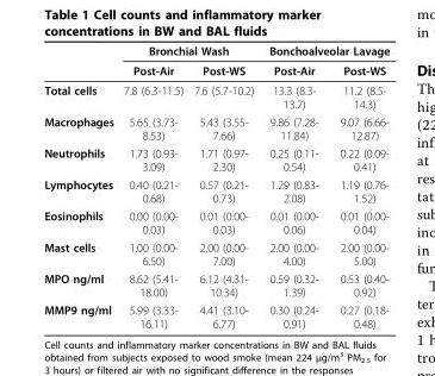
<table><thead><tr><td rowspan="2"></td><td colspan="2">Bronchial Wash</td><td colspan="2">Bonchoalveolar Lavage</td></tr><tr><td>Post-Air</td><td>Post-WS</td><td>Post-Air</td><td>Post-WS</td></tr></thead><tbody><tr><td>Total cells</td><td>7.8 (6.3-11.5)</td><td>7.6 (5.7-10.2)</td><td>13.3 (8.3- 13.7)</td><td>11.2 (8.5- 14.3)</td></tr><tr><td>Macrophages</td><td>5.65 (3.73- 8.53)</td><td>5.43 (3.55- 7.66)</td><td>9.86 (7.28- 11.84)</td><td>9.07 (6.66- 12.87)</td></tr><tr><td>Neutrophils</td><td>1.73 (0.93- 3.09)</td><td>1.71 (0.97- 2.30)</td><td>0.25 (0.11- 0.54)</td><td>0.22 (0.09- 0.41)</td></tr><tr><td>Lymphocytes</td><td>0.40 (0.21- 0.68)</td><td>0.57 (0.21- 0.73)</td><td>1.29 (0.83- 2.08)</td><td>1.19 (0.76- 1.52)</td></tr><tr><td>Eosinophils</td><td>0.00 (0.00- 0.03)</td><td>0.01 (0.00- 0.03)</td><td>0.01 (0.00- 0.06)</td><td>0.01 (0.00- 0.04)</td></tr><tr><td>Mast cells</td><td>1.00 (0.00- 6.50)</td><td>2.00 (0.00- 7.00)</td><td>2.00 (0.00- 4.00)</td><td>2.00 (0.00- 5.00)</td></tr><tr><td>MPO ng/ml</td><td>8.62 (5.41- 18.00)</td><td>6.12 (4.31- 10.34)</td><td>0.59 (0.32- 1.39)</td><td>0.53 (0.40- 0.92)</td></tr><tr><td>MMP9 ng/ml</td><td>5.99 (3.33- 16.11)</td><td>4.41 (3.10- 6.77)</td><td>0.30 (0.24- 0.91)</td><td>0.27 (0.18- 0.48)</td></tr></tbody></table>